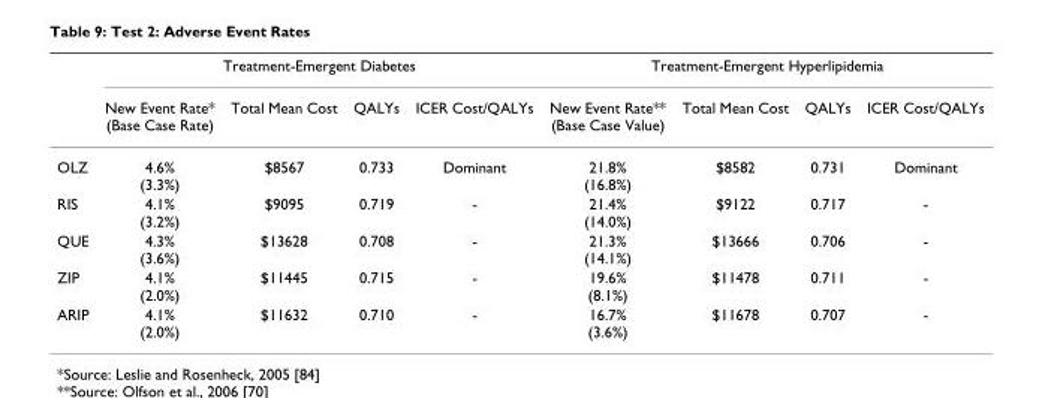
<table><thead><tr><td rowspan="2"></td><td colspan="4">Treatment-Emergent Diabetes</td><td colspan="4">Treatment-Emergent Hyperlipidemia</td></tr><tr><td>New Event Rate* (Base Case Rate)</td><td>Total Mean Cost</td><td>QALYs</td><td>ICER Cost/QALYs</td><td>New Event Rate** (Base Case Value)</td><td>Total Mean Cost</td><td>QALYs</td><td>ICER Cost/QALYs</td></tr></thead><tbody><tr><td>OLZ</td><td>4.6% (3.3%)</td><td>$8567</td><td>0.733</td><td>Dominant</td><td>21.8% (16.8%)</td><td>$8582</td><td>0.731</td><td>Dominant</td></tr><tr><td>RIS</td><td>4.1% (3.2%)</td><td>$9095</td><td>0.719</td><td>-</td><td>21.4% (14.0%)</td><td>$9122</td><td>0.717</td><td>-</td></tr><tr><td>QUE</td><td>4.3% (3.6%)</td><td>$13628</td><td>0.708</td><td>-</td><td>21.3% (14.1%)</td><td>$13666</td><td>0.706</td><td>-</td></tr><tr><td>ZIP</td><td>4.1% (2.0%)</td><td>$11445</td><td>0.715</td><td>-</td><td>19.6% (8.1%)</td><td>$11478</td><td>0.711</td><td>-</td></tr><tr><td>ARIP</td><td>4.1% (2.0%)</td><td>$11632</td><td>0.710</td><td>-</td><td>16.7% (3.6%)</td><td>$11678</td><td>0.707</td><td>-</td></tr></tbody></table>